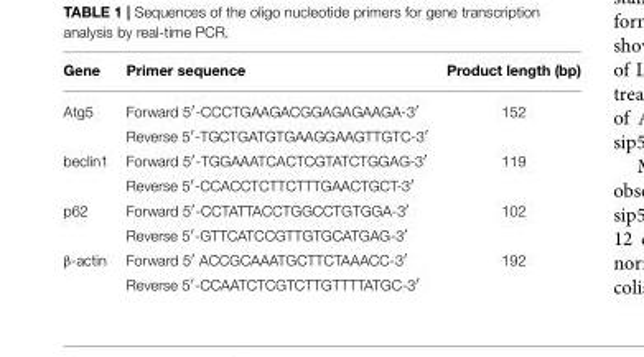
<table><thead><tr><td>Gene</td><td>Primer sequence</td><td>Product length (bp)</td></tr></thead><tbody><tr><td rowspan="2">Atg5</td><td>Forward 5′-CCCTGAAGACGGAGAGAAGA-3′</td><td>152</td></tr><tr><td>Reverse 5′-TGCTGATGTGAAGGAAGTTGTC-3′</td><td></td></tr><tr><td rowspan="2">beclin1</td><td>Forward 5′-TGGAAATCACTCGTATCTGGAG-3′</td><td>119</td></tr><tr><td>Reverse 5′-CCACCTCTTCTTTGAACTGCT-3′</td><td></td></tr><tr><td rowspan="2">p62</td><td>Forward 5′-CCTATTACCTGGCCTGTGGA-3′</td><td>102</td></tr><tr><td>Reverse 5′-GTTCATCCGTTGTGCATGAG-3′</td><td></td></tr><tr><td rowspan="2">β-actin</td><td>Forward 5′ ACCGCAAATGCTTCTAAACC-3′</td><td>192</td></tr><tr><td>Reverse 5′-CCAATCTCGTCTTGTTTTATGC-3′</td><td></td></tr></tbody></table>